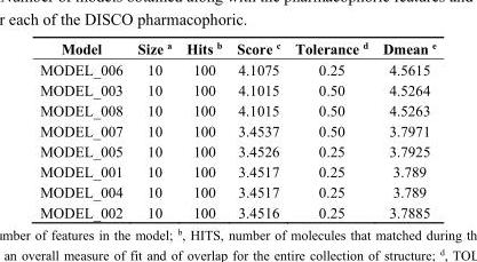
<table><thead><tr><td>Model</td><td>Size <sup>a</sup></td><td>Hits <sup>b</sup></td><td>Score <sup>c</sup></td><td>Tolerance <sup>d</sup></td><td>Dmean <sup>e</sup></td></tr></thead><tbody><tr><td>MODEL_006</td><td>10</td><td>100</td><td>4.1075</td><td>0.25</td><td>4.5615</td></tr><tr><td>MODEL_003</td><td>10</td><td>100</td><td>4.1015</td><td>0.50</td><td>4.5264</td></tr><tr><td>MODEL_008</td><td>10</td><td>100</td><td>4.1015</td><td>0.50</td><td>4.5263</td></tr><tr><td>MODEL_007</td><td>10</td><td>100</td><td>3.4537</td><td>0.50</td><td>3.7971</td></tr><tr><td>MODEL_005</td><td>10</td><td>100</td><td>3.4526</td><td>0.25</td><td>3.7925</td></tr><tr><td>MODEL_001</td><td>10</td><td>100</td><td>3.4517</td><td>0.25</td><td>3.789</td></tr><tr><td>MODEL_004</td><td>10</td><td>100</td><td>3.4517</td><td>0.25</td><td>3.789</td></tr><tr><td>MODEL_002</td><td>10</td><td>100</td><td>3.4516</td><td>0.25</td><td>3.7885</td></tr></tbody></table>